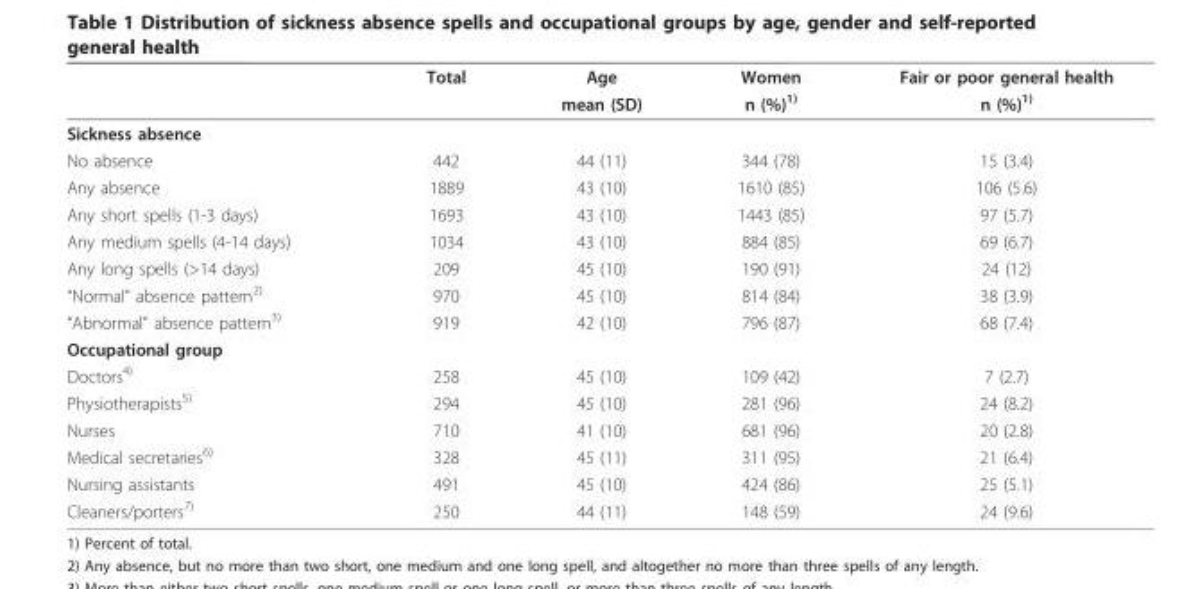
<table><thead><tr><td rowspan="2"></td><td rowspan="2">Total</td><td rowspan="2">Age mean (SD)</td><td rowspan="2">Women n (%)<sup>1)</sup></td><td rowspan="2">Fair or poor general health n (%)<sup>1)</sup></td></tr><tr></tr></thead><tbody><tr><td colspan="5">Sickness absence</td></tr><tr><td>No absence</td><td>442</td><td>44 (11)</td><td>344 (78)</td><td>15 (3.4)</td></tr><tr><td>Any absence</td><td>1889</td><td>43 (10)</td><td>1610 (85)</td><td>106 (5.6)</td></tr><tr><td>Any short spells (1-3 days)</td><td>1693</td><td>43 (10)</td><td>1443 (85)</td><td>97 (5.7)</td></tr><tr><td>Any medium spells (4-14 days)</td><td>1034</td><td>43 (10)</td><td>884 (85)</td><td>69 (6.7)</td></tr><tr><td>Any long spells (&gt;14 days)</td><td>209</td><td>45 (10)</td><td>190 (91)</td><td>24 (12)</td></tr><tr><td>“Normal” absence pattern2)</td><td>970</td><td>45 (10)</td><td>814 (84)</td><td>38 (3.9)</td></tr><tr><td>“Abnormal” absence pattern3)</td><td>919</td><td>42 (10)</td><td>796 (87)</td><td>68 (7.4)</td></tr><tr><td colspan="5">Occupational group</td></tr><tr><td>Doctors<sup>4)</sup></td><td>258</td><td>45 (10)</td><td>109 (42)</td><td>7 (2.7)</td></tr><tr><td>Physiotherapists<sup>5)</sup></td><td>294</td><td>45 (10)</td><td>281 (96)</td><td>24 (8.2)</td></tr><tr><td>Nurses</td><td>710</td><td>41 (10)</td><td>681 (96)</td><td>20 (2.8)</td></tr><tr><td>Medical secretaries<sup>6)</sup></td><td>328</td><td>45 (11)</td><td>311 (95)</td><td>21 (6.4)</td></tr><tr><td>Nursing assistants</td><td>491</td><td>45 (10)</td><td>424 (86)</td><td>25 (5.1)</td></tr><tr><td>Cleaners/porters<sup>7)</sup></td><td>250</td><td>44 (11)</td><td>148 (59)</td><td>24 (9.6)</td></tr></tbody></table>